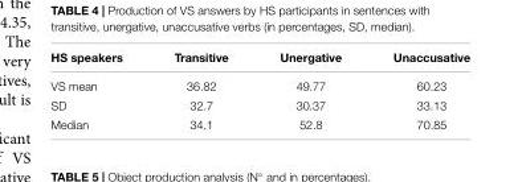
<table><thead><tr><td>HS speakers</td><td>Transitive</td><td>Unergative</td><td>Unaccusative</td></tr></thead><tbody><tr><td>VS mean</td><td>36.82</td><td>49.77</td><td>60.23</td></tr><tr><td>SD</td><td>32.7</td><td>30.37</td><td>33.13</td></tr><tr><td>Median</td><td>34.1</td><td>52.8</td><td>70.85</td></tr></tbody></table>